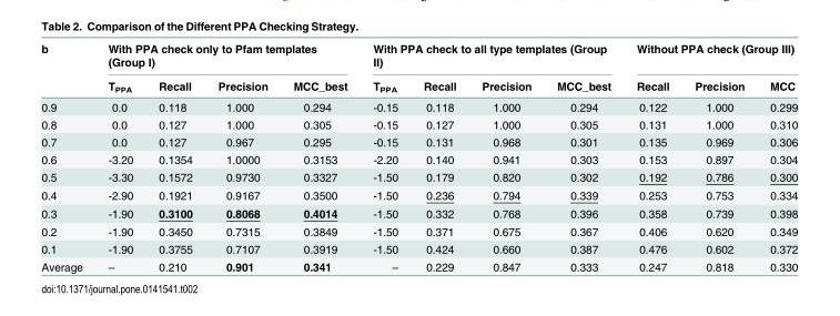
<table><thead><tr><td rowspan="2">b</td><td colspan="4">With PPA check only to Pfam templates (Group I)</td><td colspan="4">With PPA check to all type templates (Group II)</td><td colspan="3">Without PPA check (Group III)</td></tr><tr><td>T<sub>PPA</sub></td><td>Recall</td><td>Precision</td><td>MCC_best</td><td>T<sub>PPA</sub></td><td>Recall</td><td>Precision</td><td>MCC_best</td><td>Recall</td><td>Precision</td><td>MCC</td></tr></thead><tbody><tr><td>0.9</td><td>0.0</td><td>0.118</td><td>1.000</td><td>0.294</td><td>-0.15</td><td>0.118</td><td>1.000</td><td>0.294</td><td>0.122</td><td>1.000</td><td>0.299</td></tr><tr><td>0.8</td><td>0.0</td><td>0.127</td><td>1.000</td><td>0.305</td><td>-0.15</td><td>0.127</td><td>1.000</td><td>0.305</td><td>0.131</td><td>1.000</td><td>0.310</td></tr><tr><td>0.7</td><td>0.0</td><td>0.127</td><td>0.967</td><td>0.295</td><td>-0.15</td><td>0.131</td><td>0.968</td><td>0.301</td><td>0.135</td><td>0.969</td><td>0.306</td></tr><tr><td>0.6</td><td>-3.20</td><td>0.1354</td><td>1.0000</td><td>0.3153</td><td>-2.20</td><td>0.140</td><td>0.941</td><td>0.303</td><td>0.153</td><td>0.897</td><td>0.304</td></tr><tr><td>0.5</td><td>-3.30</td><td>0.1572</td><td>0.9730</td><td>0.3327</td><td>-1.50</td><td>0.179</td><td>0.820</td><td>0.302</td><td>0.192</td><td>0.786</td><td>0.300</td></tr><tr><td>0.4</td><td>-2.90</td><td>0.1921</td><td>0.9167</td><td>0.3500</td><td>-1.50</td><td>0.236</td><td>0.794</td><td>0.339</td><td>0.253</td><td>0.753</td><td>0.334</td></tr><tr><td>0.3</td><td>-1.90</td><td>0.3100</td><td>0.8068</td><td>0.4014</td><td>-1.50</td><td>0.332</td><td>0.768</td><td>0.396</td><td>0.358</td><td>0.739</td><td>0.398</td></tr><tr><td>0.2</td><td>-1.90</td><td>0.3450</td><td>0.7315</td><td>0.3849</td><td>-1.50</td><td>0.371</td><td>0.675</td><td>0.367</td><td>0.406</td><td>0.620</td><td>0.349</td></tr><tr><td>0.1</td><td>-1.90</td><td>0.3755</td><td>0.7107</td><td>0.3919</td><td>-1.50</td><td>0.424</td><td>0.660</td><td>0.387</td><td>0.476</td><td>0.602</td><td>0.372</td></tr><tr><td>Average</td><td>–</td><td>0.210</td><td>0.901</td><td>0.341</td><td>–</td><td>0.229</td><td>0.847</td><td>0.333</td><td>0.247</td><td>0.818</td><td>0.330</td></tr></tbody></table>